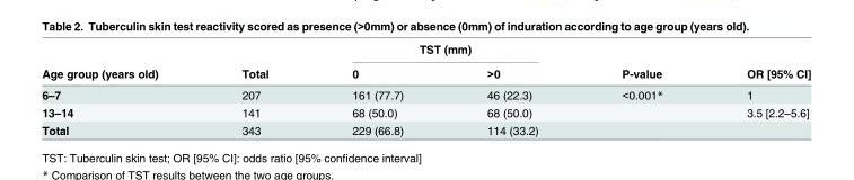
<table><thead><tr><td rowspan="2">Age group (years old)</td><td rowspan="2">Total</td><td colspan="2">TST (mm)</td><td rowspan="2">P-value</td><td rowspan="2">OR [95% CI]</td></tr><tr><td>0</td><td>&gt;0</td></tr></thead><tbody><tr><td>6–7</td><td>207</td><td>161 (77.7)</td><td>46 (22.3)</td><td>&lt;0.001*</td><td>1</td></tr><tr><td>13–14</td><td>141</td><td>68 (50.0)</td><td>68 (50.0)</td><td></td><td>3.5 [2.2–5.6]</td></tr><tr><td>Total</td><td>343</td><td>229 (66.8)</td><td>114 (33.2)</td><td></td><td></td></tr></tbody></table>